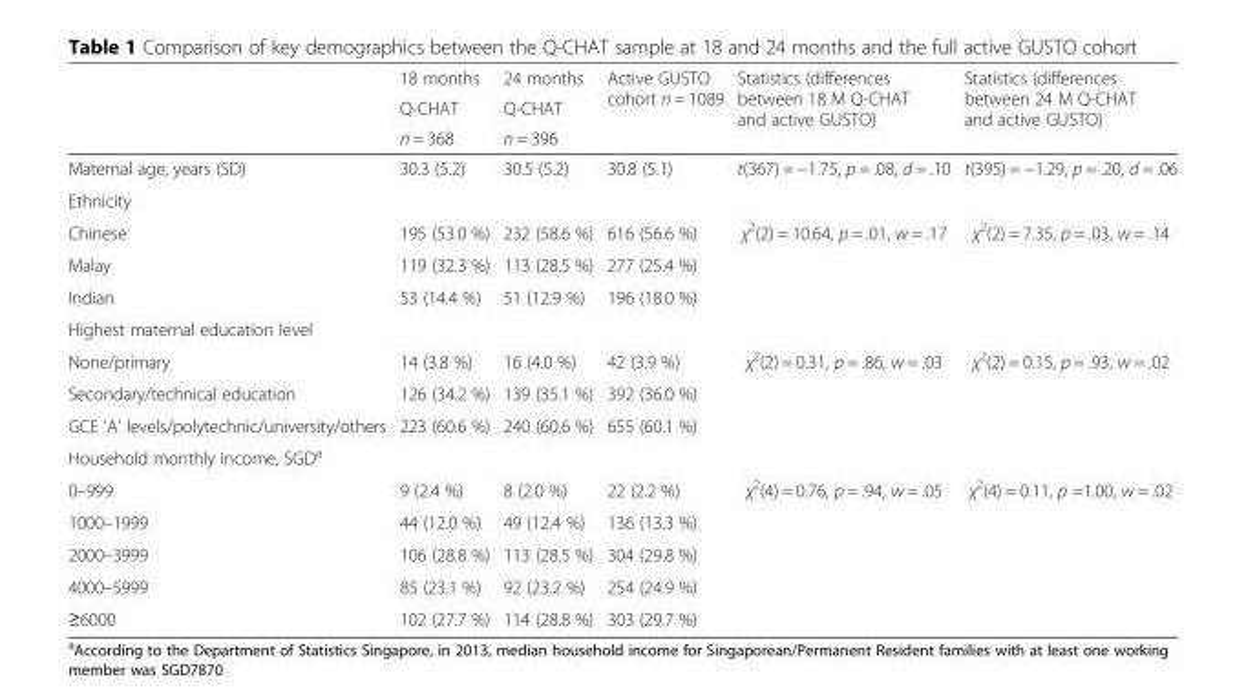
<table><thead><tr><td rowspan="3"></td><td rowspan="3">18 months Q-CHAT n = 368</td><td rowspan="3">24 months Q-CHAT n = 396</td><td rowspan="3">Active GUSTO cohort n = 1089</td><td rowspan="3">Statistics (differences between 18 M Q-CHAT and active GUSTO)</td><td rowspan="3">Statistics (differences between 24 M Q-CHAT and active GUSTO)</td></tr><tr></tr><tr></tr></thead><tbody><tr><td>Maternal age, years (SD)</td><td>30.3 (5.2)</td><td>30.5 (5.2)</td><td>30.8 (5.1)</td><td>t(367) = −1.75, p = .08, d = .10</td><td>t(395) = −1.29, p = .20, d = .06</td></tr><tr><td colspan="6">Ethnicity</td></tr><tr><td>Chinese</td><td>195 (53.0 %)</td><td>232 (58.6 %)</td><td>616 (56.6 %)</td><td rowspan="3">χ<sup>2</sup>(2) = 10.64, p = .01, w = .17</td><td rowspan="3">χ<sup>2</sup>(2) = 7.35, p = .03, w = .14</td></tr><tr><td>Malay</td><td>119 (32.3 %)</td><td>113 (28.5 %)</td><td>277 (25.4 %)</td></tr><tr><td>Indian</td><td>53 (14.4 %)</td><td>51 (12.9 %)</td><td>196 (18.0 %)</td></tr><tr><td colspan="6">Highest maternal education level</td></tr><tr><td>None/primary</td><td>14 (3.8 %)</td><td>16 (4.0 %)</td><td>42 (3.9 %)</td><td rowspan="3">χ<sup>2</sup>(2) = 0.31, p = .86, w = .03</td><td rowspan="3">χ<sup>2</sup>(2) = 0.15, p = .93, w = .02</td></tr><tr><td>Secondary/technical education</td><td>126 (34.2 %)</td><td>139 (35.1 %)</td><td>392 (36.0 %)</td></tr><tr><td>GCE ‘A’ levels/polytechnic/university/others</td><td>223 (60.6 %)</td><td>240 (60.6 %)</td><td>655 (60.1 %)</td></tr><tr><td colspan="6">Household monthly income, SGD<sup>a</sup></td></tr><tr><td>0–999</td><td>9 (2.4 %)</td><td>8 (2.0 %)</td><td>22 (2.2 %)</td><td rowspan="3">χ<sup>2</sup>(4) = 0.76, p = .94, w = .05</td><td rowspan="5">χ<sup>2</sup>(4) = 0.11, p =1.00, w = .02</td></tr><tr><td>1000–1999</td><td>44 (12.0 %)</td><td>49 (12.4 %)</td><td>136 (13.3 %)</td></tr><tr><td>2000–3999</td><td>106 (28.8 %)</td><td>113 (28.5 %)</td><td>304 (29.8 %)</td></tr><tr><td>4000–5999</td><td>85 (23.1 %)</td><td>92 (23.2 %)</td><td>254 (24.9 %)</td><td></td></tr><tr><td>≥6000</td><td>102 (27.7 %)</td><td>114 (28.8 %)</td><td>303 (29.7 %)</td><td></td></tr></tbody></table>